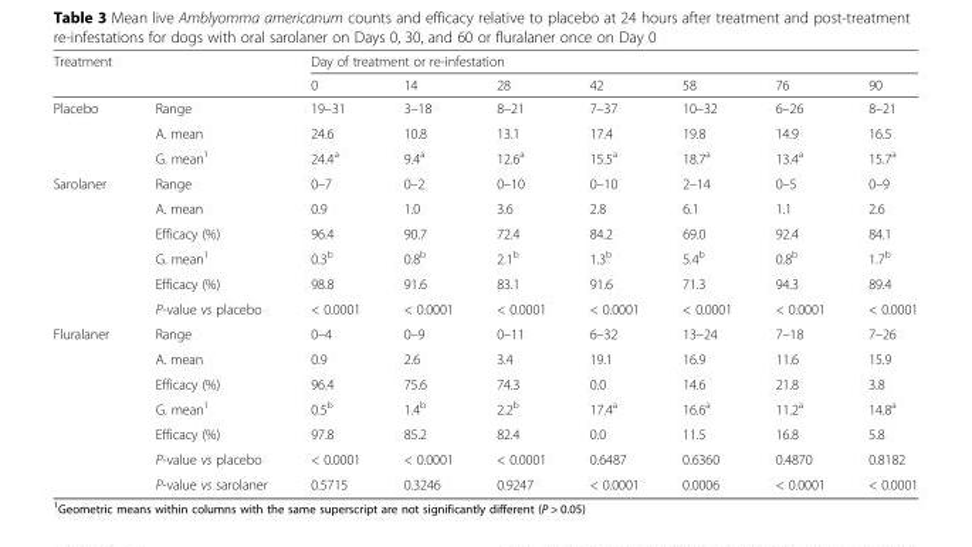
<table><thead><tr><td rowspan="2">Treatment</td><td rowspan="2"></td><td colspan="7">Day of treatment or re-infestation</td></tr><tr><td>0</td><td>14</td><td>28</td><td>42</td><td>58</td><td>76</td><td>90</td></tr></thead><tbody><tr><td rowspan="3">Placebo</td><td>Range</td><td>19–31</td><td>3–18</td><td>8–21</td><td>7–37</td><td>10–32</td><td>6–26</td><td>8–21</td></tr><tr><td>A. mean</td><td>24.6</td><td>10.8</td><td>13.1</td><td>17.4</td><td>19.8</td><td>14.9</td><td>16.5</td></tr><tr><td>G. mean<sup>1</sup></td><td>24.4<sup>a</sup></td><td>9.4<sup>a</sup></td><td>12.6<sup>a</sup></td><td>15.5<sup>a</sup></td><td>18.7<sup>a</sup></td><td>13.4<sup>a</sup></td><td>15.7<sup>a</sup></td></tr><tr><td rowspan="6">Sarolaner</td><td>Range</td><td>0–7</td><td>0–2</td><td>0–10</td><td>0–10</td><td>2–14</td><td>0–5</td><td>0–9</td></tr><tr><td>A. mean</td><td>0.9</td><td>1.0</td><td>3.6</td><td>2.8</td><td>6.1</td><td>1.1</td><td>2.6</td></tr><tr><td>Efficacy (%)</td><td>96.4</td><td>90.7</td><td>72.4</td><td>84.2</td><td>69.0</td><td>92.4</td><td>84.1</td></tr><tr><td>G. mean<sup>1</sup></td><td>0.3<sup>b</sup></td><td>0.8<sup>b</sup></td><td>2.1<sup>b</sup></td><td>1.3<sup>b</sup></td><td>5.4<sup>b</sup></td><td>0.8<sup>b</sup></td><td>1.7<sup>b</sup></td></tr><tr><td>Efficacy (%)</td><td>98.8</td><td>91.6</td><td>83.1</td><td>91.6</td><td>71.3</td><td>94.3</td><td>89.4</td></tr><tr><td>P-value vs placebo</td><td>&lt; 0.0001</td><td>&lt; 0.0001</td><td>&lt; 0.0001</td><td>&lt; 0.0001</td><td>&lt; 0.0001</td><td>&lt; 0.0001</td><td>&lt; 0.0001</td></tr><tr><td rowspan="7">Fluralaner</td><td>Range</td><td>0–4</td><td>0–9</td><td>0–11</td><td>6–32</td><td>13–24</td><td>7–18</td><td>7–26</td></tr><tr><td>A. mean</td><td>0.9</td><td>2.6</td><td>3.4</td><td>19.1</td><td>16.9</td><td>11.6</td><td>15.9</td></tr><tr><td>Efficacy (%)</td><td>96.4</td><td>75.6</td><td>74.3</td><td>0.0</td><td>14.6</td><td>21.8</td><td>3.8</td></tr><tr><td>G. mean<sup>1</sup></td><td>0.5<sup>b</sup></td><td>1.4<sup>b</sup></td><td>2.2<sup>b</sup></td><td>17.4<sup>a</sup></td><td>16.6<sup>a</sup></td><td>11.2<sup>a</sup></td><td>14.8<sup>a</sup></td></tr><tr><td>Efficacy (%)</td><td>97.8</td><td>85.2</td><td>82.4</td><td>0.0</td><td>11.5</td><td>16.8</td><td>5.8</td></tr><tr><td>P-value vs placebo</td><td>&lt; 0.0001</td><td>&lt; 0.0001</td><td>&lt; 0.0001</td><td>0.6487</td><td>0.6360</td><td>0.4870</td><td>0.8182</td></tr><tr><td>P-value vs sarolaner</td><td>0.5715</td><td>0.3246</td><td>0.9247</td><td>&lt; 0.0001</td><td>0.0006</td><td>&lt; 0.0001</td><td>&lt; 0.0001</td></tr></tbody></table>